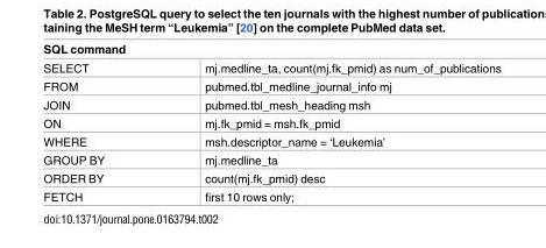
<table><thead><tr><td colspan="2">SQL command</td></tr><tr><td>SELECT</td><td>mj.medline_ta, count(mj.fk_pmid) as num_of_publications</td></tr></thead><tbody><tr><td>FROM</td><td>pubmed.tbl_medline_journal_info mj</td></tr><tr><td>JOIN</td><td>pubmed.tbl_mesh_heading msh</td></tr><tr><td>ON</td><td>mj.fk_pmid = msh.fk_pmid</td></tr><tr><td>WHERE</td><td>msh.descriptor_name = ‘Leukemia’</td></tr><tr><td>GROUP BY</td><td>mj.medline_ta</td></tr><tr><td>ORDER BY</td><td>count(mj.fk_pmid) desc</td></tr><tr><td>FETCH</td><td>first 10 rows only;</td></tr></tbody></table>